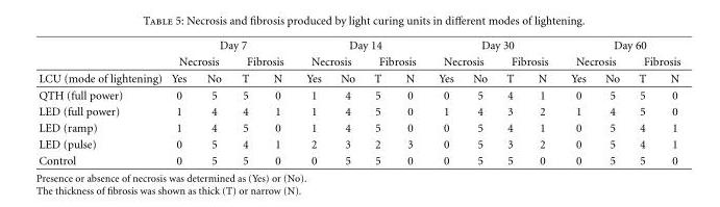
<table><thead><tr><td rowspan="3">LCU (mode of lightening)</td><td colspan="4">Day 7</td><td colspan="4">Day 14</td><td colspan="4">Day 30</td><td colspan="4">Day 60</td></tr><tr><td colspan="2">Necrosis</td><td colspan="2">Fibrosis</td><td colspan="2">Necrosis</td><td colspan="2">Fibrosis</td><td colspan="2">Necrosis</td><td colspan="2">Fibrosis</td><td colspan="2">Necrosis</td><td colspan="2">Fibrosis</td></tr><tr><td>Yes</td><td>No</td><td>T</td><td>N</td><td>Yes</td><td>No</td><td>T</td><td>N</td><td>Yes</td><td>No</td><td>T</td><td>N</td><td>Yes</td><td>No</td><td>T</td><td>N</td></tr></thead><tbody><tr><td>QTH (full power)</td><td>0</td><td>5</td><td>5</td><td>0</td><td>1</td><td>4</td><td>5</td><td>0</td><td>0</td><td>5</td><td>4</td><td>1</td><td>0</td><td>5</td><td>5</td><td>0</td></tr><tr><td>LED (full power)</td><td>1</td><td>4</td><td>4</td><td>1</td><td>1</td><td>4</td><td>5</td><td>0</td><td>1</td><td>4</td><td>3</td><td>2</td><td>1</td><td>4</td><td>5</td><td>0</td></tr><tr><td>LED (ramp)</td><td>1</td><td>4</td><td>5</td><td>0</td><td>1</td><td>4</td><td>5</td><td>0</td><td>0</td><td>5</td><td>4</td><td>1</td><td>0</td><td>5</td><td>4</td><td>1</td></tr><tr><td>LED (pulse)</td><td>0</td><td>5</td><td>4</td><td>1</td><td>2</td><td>3</td><td>2</td><td>3</td><td>0</td><td>5</td><td>3</td><td>2</td><td>0</td><td>5</td><td>4</td><td>1</td></tr><tr><td>Control</td><td>0</td><td>5</td><td>5</td><td>0</td><td>0</td><td>5</td><td>5</td><td>0</td><td>0</td><td>5</td><td>5</td><td>0</td><td>0</td><td>5</td><td>5</td><td>0</td></tr></tbody></table>